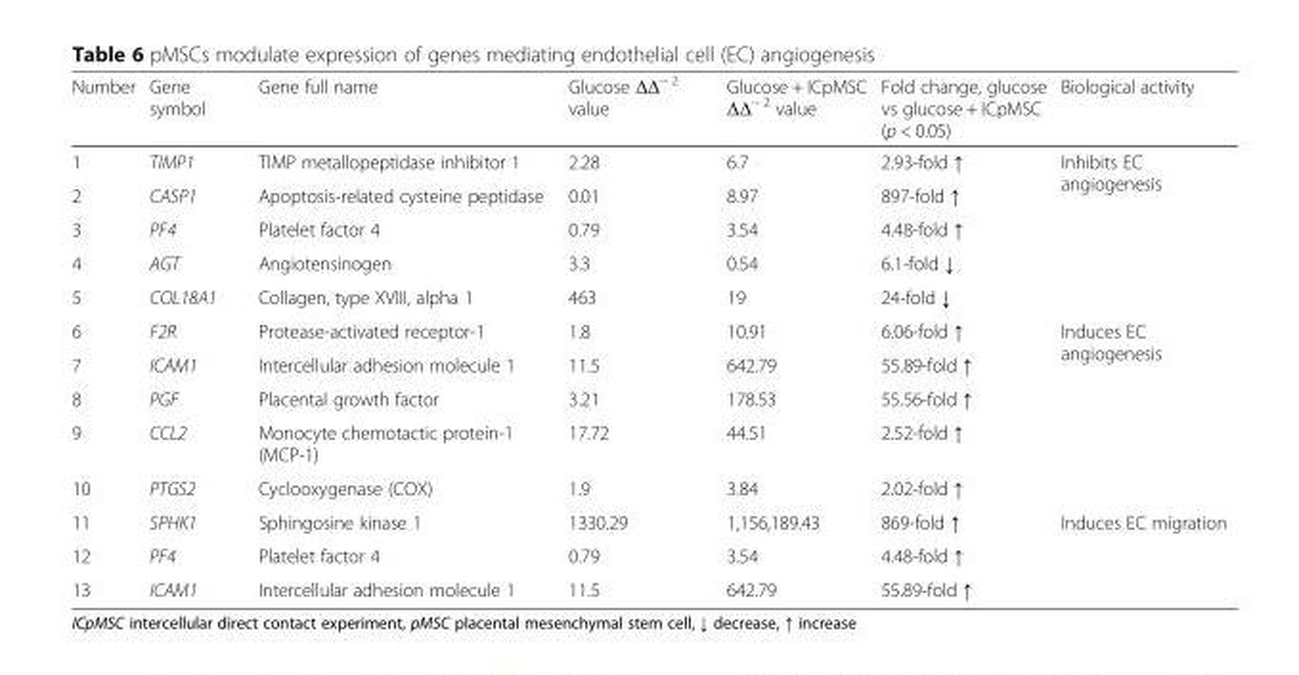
<table><thead><tr><td>Number</td><td>Gene symbol</td><td>Gene full name</td><td>Glucose ΔΔ<sup>− 2</sup> value</td><td>Glucose + ICpMSC ΔΔ<sup>− 2</sup> value</td><td>Fold change, glucose vs glucose + ICpMSC (p &lt; 0.05)</td><td>Biological activity</td></tr></thead><tbody><tr><td>1</td><td>TIMP1</td><td>TIMP metallopeptidase inhibitor 1</td><td>2.28</td><td>6.7</td><td>2.93-fold ↑</td><td rowspan="5">Inhibits EC angiogenesis</td></tr><tr><td>2</td><td>CASP1</td><td>Apoptosis-related cysteine peptidase</td><td>0.01</td><td>8.97</td><td>897-fold ↑</td></tr><tr><td>3</td><td>PF4</td><td>Platelet factor 4</td><td>0.79</td><td>3.54</td><td>4.48-fold ↑</td></tr><tr><td>4</td><td>AGT</td><td>Angiotensinogen</td><td>3.3</td><td>0.54</td><td>6.1-fold ↓</td></tr><tr><td>5</td><td>COL18A1</td><td>Collagen, type XVIII, alpha 1</td><td>463</td><td>19</td><td>24-fold ↓</td></tr><tr><td>6</td><td>F2R</td><td>Protease-activated receptor-1</td><td>1.8</td><td>10.91</td><td>6.06-fold ↑</td><td rowspan="5">Induces EC angiogenesis</td></tr><tr><td>7</td><td>ICAM1</td><td>Intercellular adhesion molecule 1</td><td>11.5</td><td>642.79</td><td>55.89-fold ↑</td></tr><tr><td>8</td><td>PGF</td><td>Placental growth factor</td><td>3.21</td><td>178.53</td><td>55.56-fold ↑</td></tr><tr><td>9</td><td>CCL2</td><td>Monocyte chemotactic protein-1 (MCP-1)</td><td>17.72</td><td>44.51</td><td>2.52-fold ↑</td></tr><tr><td>10</td><td>PTGS2</td><td>Cyclooxygenase (COX)</td><td>1.9</td><td>3.84</td><td>2.02-fold ↑</td></tr><tr><td>11</td><td>SPHK1</td><td>Sphingosine kinase 1</td><td>1330.29</td><td>1,156,189.43</td><td>869-fold ↑</td><td rowspan="3">Induces EC migration</td></tr><tr><td>12</td><td>PF4</td><td>Platelet factor 4</td><td>0.79</td><td>3.54</td><td>4.48-fold ↑</td></tr><tr><td>13</td><td>ICAM1</td><td>Intercellular adhesion molecule 1</td><td>11.5</td><td>642.79</td><td>55.89-fold ↑</td></tr></tbody></table>